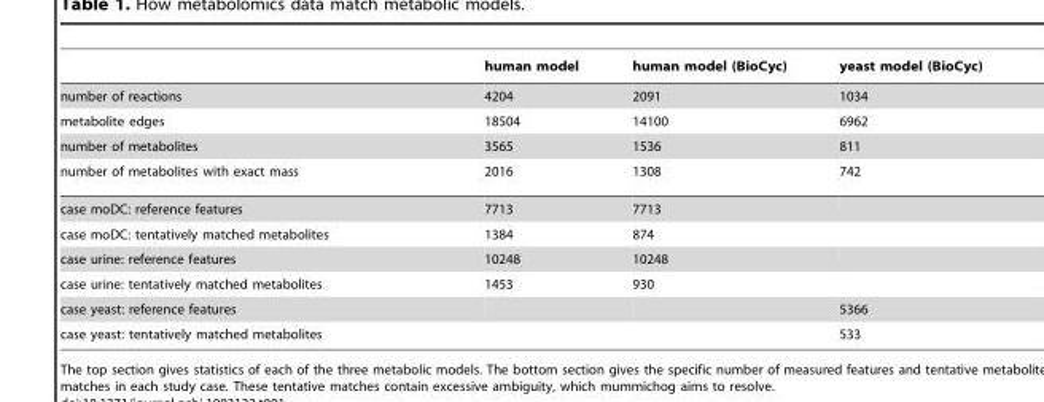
<table><thead><tr><td></td><td>human model</td><td>human model (BioCyc)</td><td>yeast model (BioCyc)</td></tr></thead><tbody><tr><td>number of reactions</td><td>4204</td><td>2091</td><td>1034</td></tr><tr><td>metabolite edges</td><td>18504</td><td>14100</td><td>6962</td></tr><tr><td>number of metabolites</td><td>3565</td><td>1536</td><td>811</td></tr><tr><td>number of metabolites with exact mass</td><td>2016</td><td>1308</td><td>742</td></tr><tr><td>case moDC: reference features</td><td>7713</td><td>7713</td><td></td></tr><tr><td>case moDC: tentatively matched metabolites</td><td>1384</td><td>874</td><td></td></tr><tr><td>case urine: reference features</td><td>10248</td><td>10248</td><td></td></tr><tr><td>case urine: tentatively matched metabolites</td><td>1453</td><td>930</td><td></td></tr><tr><td>case yeast: reference features</td><td></td><td></td><td>5366</td></tr><tr><td>case yeast: tentatively matched metabolites</td><td></td><td></td><td>533</td></tr></tbody></table>